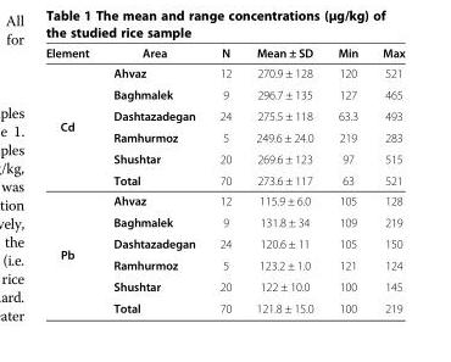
<table><thead><tr><td>Element</td><td>Area</td><td>N</td><td>Mean ± SD</td><td>Min</td><td>Max</td></tr></thead><tbody><tr><td rowspan="6">Cd</td><td>Ahvaz</td><td>12</td><td>270.9 ± 128</td><td>120</td><td>521</td></tr><tr><td>Baghmalek</td><td>9</td><td>296.7 ± 135</td><td>127</td><td>465</td></tr><tr><td>Dashtazadegan</td><td>24</td><td>275.5 ± 118</td><td>63.3</td><td>493</td></tr><tr><td>Ramhurmoz</td><td>5</td><td>249.6 ± 24.0</td><td>219</td><td>283</td></tr><tr><td>Shushtar</td><td>20</td><td>269.6 ± 123</td><td>97</td><td>515</td></tr><tr><td>Total</td><td>70</td><td>273.6 ± 117</td><td>63</td><td>521</td></tr><tr><td rowspan="6">Pb</td><td>Ahvaz</td><td>12</td><td>115.9 ± 6.0</td><td>105</td><td>128</td></tr><tr><td>Baghmalek</td><td>9</td><td>131.8 ± 34</td><td>109</td><td>219</td></tr><tr><td>Dashtazadegan</td><td>24</td><td>120.6 ± 11</td><td>105</td><td>150</td></tr><tr><td>Ramhurmoz</td><td>5</td><td>123.2 ± 1.0</td><td>121</td><td>124</td></tr><tr><td>Shushtar</td><td>20</td><td>122 ± 10.0</td><td>100</td><td>145</td></tr><tr><td>Total</td><td>70</td><td>121.8 ± 15.0</td><td>100</td><td>219</td></tr></tbody></table>